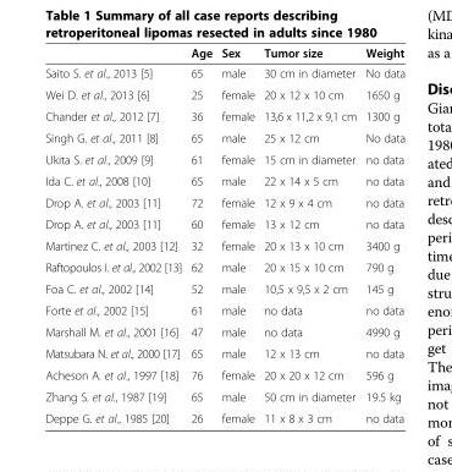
<table><thead><tr><td></td><td>Age</td><td>Sex</td><td>Tumor size</td><td>Weight</td></tr></thead><tbody><tr><td>Saito S. et al., 2013 [5]</td><td>65</td><td>male</td><td>30 cm in diameter</td><td>No data</td></tr><tr><td>Wei D. et al., 2013 [6]</td><td>25</td><td>female</td><td>20 x 12 x 10 cm</td><td>1650 g</td></tr><tr><td>Chander et al., 2012 [7]</td><td>36</td><td>female</td><td>13,6 x 11,2 x 9,1 cm</td><td>1300 g</td></tr><tr><td>Singh G. et al., 2011 [8]</td><td>65</td><td>male</td><td>25 x 12 cm</td><td>No data</td></tr><tr><td>Ukita S. et al., 2009 [9]</td><td>61</td><td>female</td><td>15 cm in diameter</td><td>no data</td></tr><tr><td>Ida C. et al., 2008 [10]</td><td>65</td><td>male</td><td>22 x 14 x 5 cm</td><td>no data</td></tr><tr><td>Drop A. et al., 2003 [11]</td><td>72</td><td>female</td><td>12 x 9 x 4 cm</td><td>no data</td></tr><tr><td>Drop A. et al., 2003 [11]</td><td>60</td><td>female</td><td>13 x 12 cm</td><td>no data</td></tr><tr><td>Martinez C. et al., 2003 [12]</td><td>32</td><td>female</td><td>20 x 13 x 10 cm</td><td>3400 g</td></tr><tr><td>Raftopoulos I. et al., 2002 [13]</td><td>62</td><td>male</td><td>20 x 15 x 10 cm</td><td>790 g</td></tr><tr><td>Foa C. et al., 2002 [14]</td><td>52</td><td>male</td><td>10,5 x 9,5 x 2 cm</td><td>145 g</td></tr><tr><td>Forte et al., 2002 [15]</td><td>61</td><td>male</td><td>no data</td><td>no data</td></tr><tr><td>Marshall M. et al., 2001 [16]</td><td>47</td><td>male</td><td>no data</td><td>4990 g</td></tr><tr><td>Matsubara N. et al., 2000 [17]</td><td>65</td><td>male</td><td>12 x 13 cm</td><td>no data</td></tr><tr><td>Acheson A. et al., 1997 [18]</td><td>76</td><td>female</td><td>20 x 20 x 12 cm</td><td>596 g</td></tr><tr><td>Zhang S. et al., 1987 [19]</td><td>65</td><td>male</td><td>50 cm in diameter</td><td>19.5 kg</td></tr><tr><td>Deppe G. et al., 1985 [20]</td><td>26</td><td>female</td><td>11 x 8 x 3 cm</td><td>no data</td></tr></tbody></table>